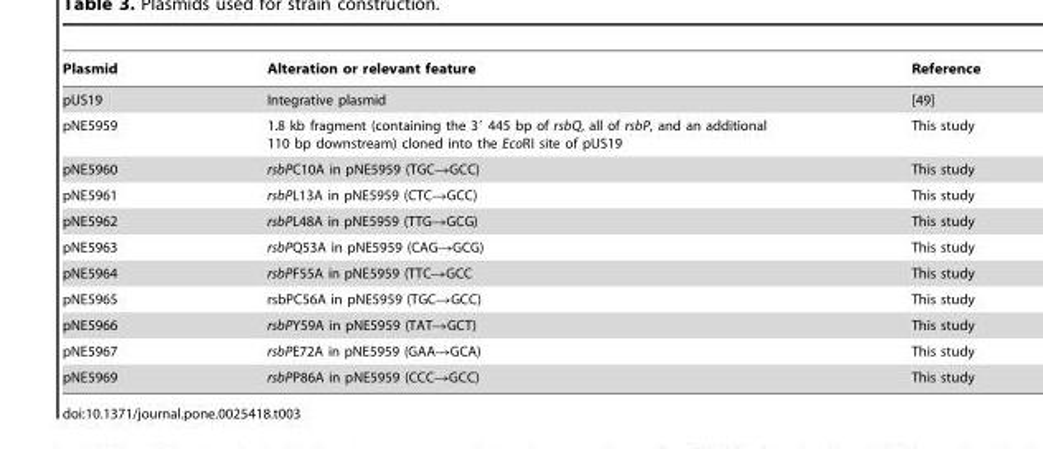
<table><thead><tr><td>Plasmid</td><td>Alteration or relevant feature</td><td>Reference</td></tr></thead><tbody><tr><td>pUS19</td><td>Integrative plasmid</td><td>[49]</td></tr><tr><td>pNE5959</td><td>1.8 kb fragment (containing the 3′ 445 bp of rsbQ, all of rsbP, and an additional 110 bp downstream) cloned into the EcoRI site of pUS19</td><td>This study</td></tr><tr><td>pNE5960</td><td>rsbPC10A in pNE5959 (TGC→GCC)</td><td>This study</td></tr><tr><td>pNE5961</td><td>rsbPL13A in pNE5959 (CTC→GCC)</td><td>This study</td></tr><tr><td>pNE5962</td><td>rsbPL48A in pNE5959 (TTG→GCG)</td><td>This study</td></tr><tr><td>pNE5963</td><td>rsbPQ53A in pNE5959 (CAG→GCG)</td><td>This study</td></tr><tr><td>pNE5964</td><td>rsbPF55A in pNE5959 (TTC→GCC</td><td>This study</td></tr><tr><td>pNE5965</td><td>rsbPC56A in pNE5959 (TGC→GCC)</td><td>This study</td></tr><tr><td>pNE5966</td><td>rsbPY59A in pNE5959 (TAT→GCT)</td><td>This study</td></tr><tr><td>pNE5967</td><td>rsbPE72A in pNE5959 (GAA→GCA)</td><td>This study</td></tr><tr><td>pNE5969</td><td>rsbPP86A in pNE5959 (CCC→GCC)</td><td>This study</td></tr></tbody></table>